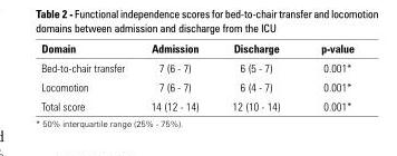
<table><thead><tr><td>Domain</td><td>Admission</td><td>Discharge</td><td>p-value</td></tr></thead><tbody><tr><td>Bed-to-chair transfer</td><td>7 (6 - 7)</td><td>6 (5 - 7)</td><td>0.001*</td></tr><tr><td>Locomotion</td><td>7 (6 - 7)</td><td>6 (4 - 7)</td><td>0.001*</td></tr><tr><td>Total score</td><td>14 (12 - 14)</td><td>12 (10 - 14)</td><td>0.001*</td></tr></tbody></table>